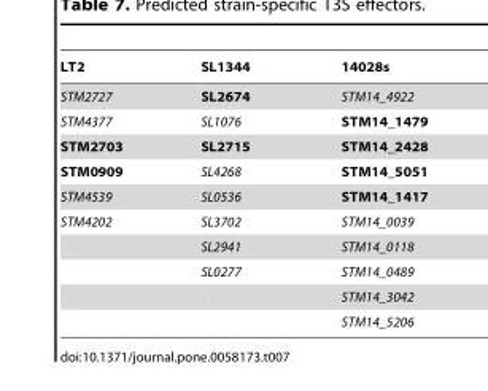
<table><thead><tr><td>LT2</td><td>SL1344</td><td>14028s</td></tr></thead><tbody><tr><td>STM2727</td><td>SL2674</td><td>STM14_4922</td></tr><tr><td>STM4377</td><td>SL1076</td><td>STM14_1479</td></tr><tr><td>STM2703</td><td>SL2715</td><td>STM14_2428</td></tr><tr><td>STM0909</td><td>SL4268</td><td>STM14_5051</td></tr><tr><td>STM4539</td><td>SL0536</td><td>STM14_1417</td></tr><tr><td rowspan="5">STM4202</td><td>SL3702</td><td>STM14_0039</td></tr><tr><td>SL2941</td><td>STM14_0118</td></tr><tr><td>SL0277</td><td>STM14_0489</td></tr><tr><td></td><td>STM14_3042</td></tr><tr><td></td><td>STM14_5206</td></tr></tbody></table>